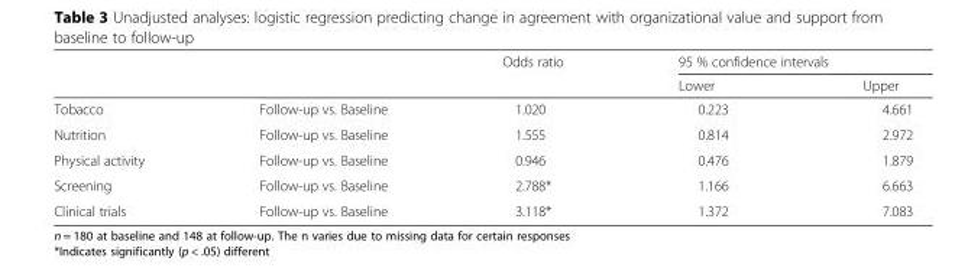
<table><thead><tr><td rowspan="2"></td><td rowspan="2"></td><td rowspan="2">Odds ratio</td><td colspan="2">95 % confidence intervals</td></tr><tr><td>Lower</td><td>Upper</td></tr></thead><tbody><tr><td>Tobacco</td><td>Follow-up vs. Baseline</td><td>1.020</td><td>0.223</td><td>4.661</td></tr><tr><td>Nutrition</td><td>Follow-up vs. Baseline</td><td>1.555</td><td>0.814</td><td>2.972</td></tr><tr><td>Physical activity</td><td>Follow-up vs. Baseline</td><td>0.946</td><td>0.476</td><td>1.879</td></tr><tr><td>Screening</td><td>Follow-up vs. Baseline</td><td>2.788*</td><td>1.166</td><td>6.663</td></tr><tr><td>Clinical trials</td><td>Follow-up vs. Baseline</td><td>3.118*</td><td>1.372</td><td>7.083</td></tr></tbody></table>